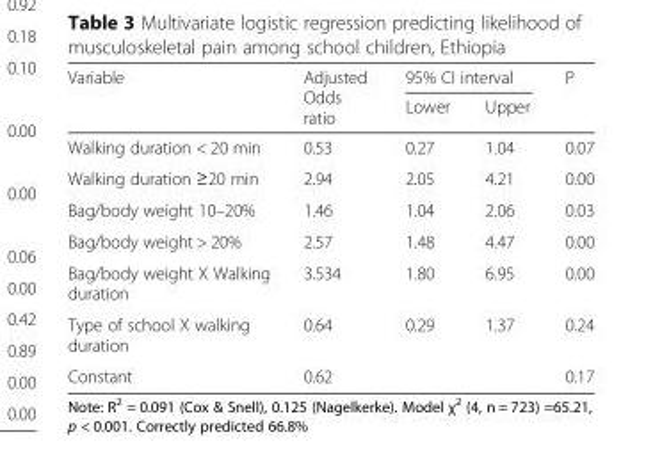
<table><thead><tr><td rowspan="2">Variable</td><td rowspan="2">Adjusted Odds ratio</td><td colspan="2">95% CI interval</td><td rowspan="2">P</td></tr><tr><td>Lower</td><td>Upper</td></tr></thead><tbody><tr><td>Walking duration &lt; 20 min</td><td>0.53</td><td>0.27</td><td>1.04</td><td>0.07</td></tr><tr><td>Walking duration ≥20 min</td><td>2.94</td><td>2.05</td><td>4.21</td><td>0.00</td></tr><tr><td>Bag/body weight 10–20%</td><td>1.46</td><td>1.04</td><td>2.06</td><td>0.03</td></tr><tr><td>Bag/body weight &gt; 20%</td><td>2.57</td><td>1.48</td><td>4.47</td><td>0.00</td></tr><tr><td>Bag/body weight X Walking duration</td><td>3.534</td><td>1.80</td><td>6.95</td><td>0.00</td></tr><tr><td>Type of school X walking duration</td><td>0.64</td><td>0.29</td><td>1.37</td><td>0.24</td></tr><tr><td>Constant</td><td>0.62</td><td></td><td></td><td>0.17</td></tr></tbody></table>